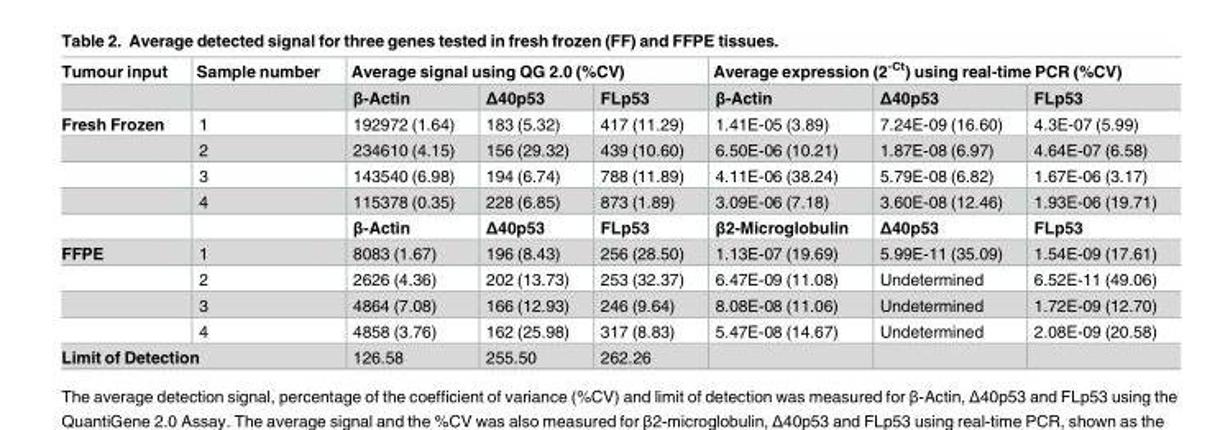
<table><thead><tr><td rowspan="2">Tumour input</td><td rowspan="2">Sample number</td><td colspan="3">Average signal using QG 2.0 (%CV)</td><td colspan="3">Average expression (2<sup>-Ct</sup>) using real-time PCR (%CV)</td></tr><tr><td>β-Actin</td><td>Δ40p53</td><td>FLp53</td><td>β-Actin</td><td>Δ40p53</td><td>FLp53</td></tr></thead><tbody><tr><td rowspan="5">Fresh Frozen</td><td>1</td><td>192972 (1.64)</td><td>183 (5.32)</td><td>417 (11.29)</td><td>1.41E-05 (3.89)</td><td>7.24E-09 (16.60)</td><td>4.3E-07 (5.99)</td></tr><tr><td>2</td><td>234610 (4.15)</td><td>156 (29.32)</td><td>439 (10.60)</td><td>6.50E-06 (10.21)</td><td>1.87E-08 (6.97)</td><td>4.64E-07 (6.58)</td></tr><tr><td>3</td><td>143540 (6.98)</td><td>194 (6.74)</td><td>788 (11.89)</td><td>4.11E-06 (38.24)</td><td>5.79E-08 (6.82)</td><td>1.67E-06 (3.17)</td></tr><tr><td>4</td><td>115378 (0.35)</td><td>228 (6.85)</td><td>873 (1.89)</td><td>3.09E-06 (7.18)</td><td>3.60E-08 (12.46)</td><td>1.93E-06 (19.71)</td></tr><tr><td></td><td>β-Actin</td><td>Δ40p53</td><td>FLp53</td><td>β2-Microglobulin</td><td>Δ40p53</td><td>FLp53</td></tr><tr><td rowspan="4">FFPE</td><td>1</td><td>8083 (1.67)</td><td>196 (8.43)</td><td>256 (28.50)</td><td>1.13E-07 (19.69)</td><td>5.99E-11 (35.09)</td><td>1.54E-09 (17.61)</td></tr><tr><td>2</td><td>2626 (4.36)</td><td>202 (13.73)</td><td>253 (32.37)</td><td>6.47E-09 (11.08)</td><td>Undetermined</td><td>6.52E-11 (49.06)</td></tr><tr><td>3</td><td>4864 (7.08)</td><td>166 (12.93)</td><td>246 (9.64)</td><td>8.08E-08 (11.06)</td><td>Undetermined</td><td>1.72E-09 (12.70)</td></tr><tr><td>4</td><td>4858 (3.76)</td><td>162 (25.98)</td><td>317 (8.83)</td><td>5.47E-08 (14.67)</td><td>Undetermined</td><td>2.08E-09 (20.58)</td></tr><tr><td colspan="2">Limit of Detection</td><td>126.58</td><td>255.50</td><td>262.26</td><td></td><td></td><td></td></tr></tbody></table>